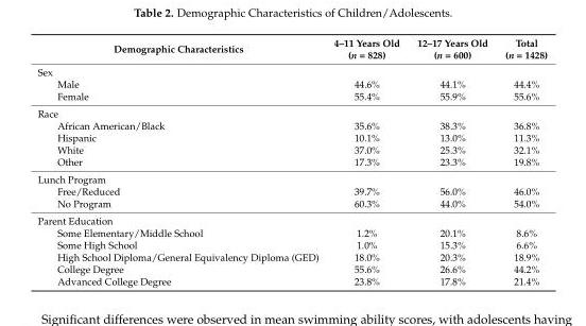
<table><thead><tr><td>Demographic Characteristics</td><td>4–11 Years Old (n = 828)</td><td>12–17 Years Old (n = 600)</td><td>Total (n = 1428)</td></tr></thead><tbody><tr><td colspan="4">Sex</td></tr><tr><td>Male</td><td>44.6%</td><td>44.1%</td><td>44.4%</td></tr><tr><td>Female</td><td>55.4%</td><td>55.9%</td><td>55.6%</td></tr><tr><td colspan="4">Race</td></tr><tr><td>African American/Black</td><td>35.6%</td><td>38.3%</td><td>36.8%</td></tr><tr><td>Hispanic</td><td>10.1%</td><td>13.0%</td><td>11.3%</td></tr><tr><td>White</td><td>37.0%</td><td>25.3%</td><td>32.1%</td></tr><tr><td>Other</td><td>17.3%</td><td>23.3%</td><td>19.8%</td></tr><tr><td colspan="4">Lunch Program</td></tr><tr><td>Free/Reduced</td><td>39.7%</td><td>56.0%</td><td>46.0%</td></tr><tr><td>No Program</td><td>60.3%</td><td>44.0%</td><td>54.0%</td></tr><tr><td colspan="4">Parent Education</td></tr><tr><td>Some Elementary/Middle School</td><td>1.2%</td><td>20.1%</td><td>8.6%</td></tr><tr><td>Some High School</td><td>1.0%</td><td>15.3%</td><td>6.6%</td></tr><tr><td>High School Diploma/General Equivalency Diploma (GED)</td><td>18.0%</td><td>20.3%</td><td>18.9%</td></tr><tr><td>College Degree</td><td>55.6%</td><td>26.6%</td><td>44.2%</td></tr><tr><td>Advanced College Degree</td><td>23.8%</td><td>17.8%</td><td>21.4%</td></tr></tbody></table>